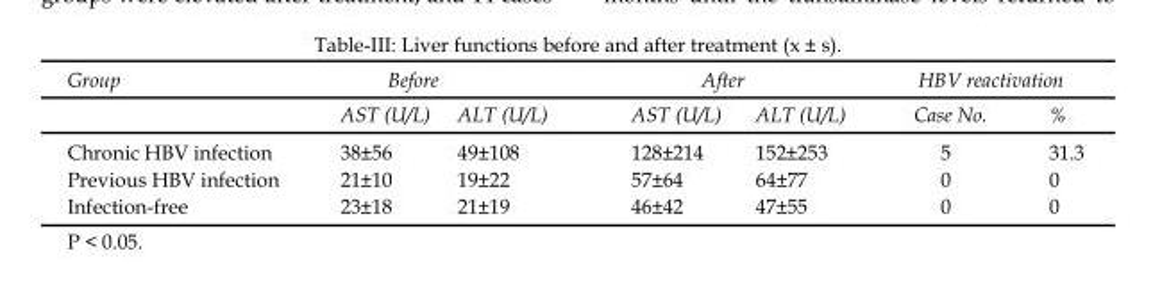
<table><thead><tr><td rowspan="2">Group</td><td colspan="2">Before</td><td colspan="2">After</td><td colspan="2">HBV reactivation</td></tr><tr><td>AST (U/L)</td><td>ALT (U/L)</td><td>AST (U/L)</td><td>ALT (U/L)</td><td>Case No.</td><td>%</td></tr></thead><tbody><tr><td>Chronic HBV infection</td><td>38±56</td><td>49±108</td><td>128±214</td><td>152±253</td><td>5</td><td>31.3</td></tr><tr><td>Previous HBV infection</td><td>21±10</td><td>19±22</td><td>57±64</td><td>64±77</td><td>0</td><td>0</td></tr><tr><td>Infection-free</td><td>23±18</td><td>21±19</td><td>46±42</td><td>47±55</td><td>0</td><td>0</td></tr></tbody></table>